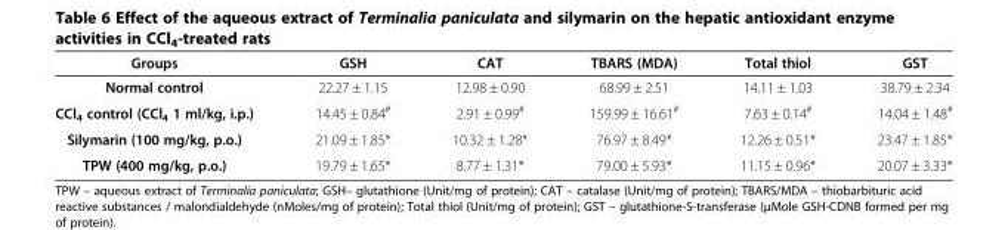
<table><thead><tr><td>Groups</td><td>GSH</td><td>CAT</td><td>TBARS (MDA)</td><td>Total thiol</td><td>GST</td></tr></thead><tbody><tr><td>Normal control</td><td>22.27 ± 1.15</td><td>12.98 ± 0.90</td><td>68.99 ± 2.51</td><td>14.11 ± 1.03</td><td>38.79 ± 2.34</td></tr><tr><td>CCl<sub>4</sub> control (CCl<sub>4</sub> 1 ml/kg, i.p.)</td><td>14.45 ± 0.84<sup>#</sup></td><td>2.91 ± 0.99<sup>#</sup></td><td>159.99 ± 16.61<sup>#</sup></td><td>7.63 ± 0.14<sup>#</sup></td><td>14.04 ± 1.48<sup>#</sup></td></tr><tr><td>Silymarin (100 mg/kg, p.o.)</td><td>21.09 ± 1.85*</td><td>10.32 ± 1.28*</td><td>76.97 ± 8.49*</td><td>12.26 ± 0.51*</td><td>23.47 ± 1.85*</td></tr><tr><td>TPW (400 mg/kg, p.o.)</td><td>19.79 ± 1.65*</td><td>8.77 ± 1.31*</td><td>79.00 ± 5.93*</td><td>11.15 ± 0.96*</td><td>20.07 ± 3.33*</td></tr></tbody></table>